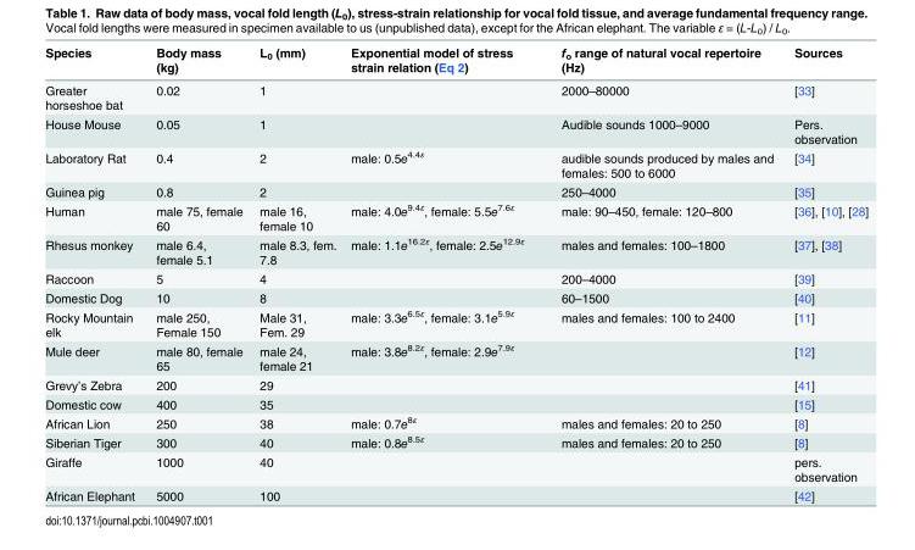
<table><thead><tr><td>Species</td><td>Body mass (kg)</td><td>L<sub>0</sub> (mm)</td><td>Exponential model of stress strain relation (Eq 2)</td><td>f<sub>o</sub> range of natural vocal repertoire (Hz)</td><td>Sources</td></tr></thead><tbody><tr><td>Greater horseshoe bat</td><td>0.02</td><td>1</td><td></td><td>2000–80000</td><td>[33]</td></tr><tr><td>House Mouse</td><td>0.05</td><td>1</td><td></td><td>Audible sounds 1000–9000</td><td>Pers. observation</td></tr><tr><td>Laboratory Rat</td><td>0.4</td><td>2</td><td>male: 0.5e<sup>4.4ε</sup></td><td>audible sounds produced by males and females: 500 to 6000</td><td>[34]</td></tr><tr><td>Guinea pig</td><td>0.8</td><td>2</td><td></td><td>250–4000</td><td>[35]</td></tr><tr><td>Human</td><td>male 75, female 60</td><td>male 16, female 10</td><td>male: 4.0e<sup>9.4ε</sup>, female: 5.5e<sup>7.6ε</sup></td><td>male: 90–450, female: 120–800</td><td>[36], [10], [28]</td></tr><tr><td>Rhesus monkey</td><td>male 6.4, female 5.1</td><td>male 8.3, fem. 7.8</td><td>male: 1.1e<sup>16.2ε</sup>, female: 2.5e<sup>12.9ε</sup></td><td>males and females: 100–1800</td><td>[37], [38]</td></tr><tr><td>Raccoon</td><td>5</td><td>4</td><td></td><td>200–4000</td><td>[39]</td></tr><tr><td>Domestic Dog</td><td>10</td><td>8</td><td></td><td>60–1500</td><td>[40]</td></tr><tr><td>Rocky Mountain elk</td><td>male 250, Female 150</td><td>Male 31, Fem. 29</td><td>male: 3.3e<sup>6.5ε</sup>, female: 3.1e<sup>5.9ε</sup></td><td>males and females: 100 to 2400</td><td>[11]</td></tr><tr><td>Mule deer</td><td>male 80, female 65</td><td>male 24, female 21</td><td>male: 3.8e<sup>8.2ε</sup>, female: 2.9e<sup>7.9ε</sup></td><td></td><td>[12]</td></tr><tr><td>Grevy’s Zebra</td><td>200</td><td>29</td><td></td><td></td><td>[41]</td></tr><tr><td>Domestic cow</td><td>400</td><td>35</td><td></td><td></td><td>[15]</td></tr><tr><td>African Lion</td><td>250</td><td>38</td><td>male: 0.7e<sup>8ε</sup></td><td>males and females: 20 to 250</td><td>[8]</td></tr><tr><td>Siberian Tiger</td><td>300</td><td>40</td><td>male: 0.8e<sup>8.5ε</sup></td><td>males and females: 20 to 250</td><td>[8]</td></tr><tr><td>Giraffe</td><td>1000</td><td>40</td><td></td><td></td><td>pers. observation</td></tr><tr><td>African Elephant</td><td>5000</td><td>100</td><td></td><td></td><td>[42]</td></tr></tbody></table>